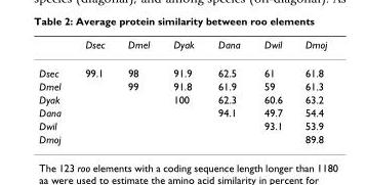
<table><thead><tr><td></td><td>Dsec</td><td>Dmel</td><td>Dyak</td><td>Dana</td><td>Dwil</td><td>Dmoj</td></tr></thead><tbody><tr><td>Dsec</td><td>99.1</td><td>98</td><td>91.9</td><td>62.5</td><td>61</td><td>61.8</td></tr><tr><td>Dmel</td><td></td><td>99</td><td>91.8</td><td>61.9</td><td>59</td><td>61.3</td></tr><tr><td>Dyak</td><td></td><td></td><td>100</td><td>62.3</td><td>60.6</td><td>63.2</td></tr><tr><td>Dana</td><td></td><td></td><td></td><td>94.1</td><td>49.7</td><td>54.4</td></tr><tr><td>Dwil</td><td></td><td></td><td></td><td></td><td>93.1</td><td>53.9</td></tr><tr><td>Dmoj</td><td></td><td></td><td></td><td></td><td></td><td>89.8</td></tr></tbody></table>